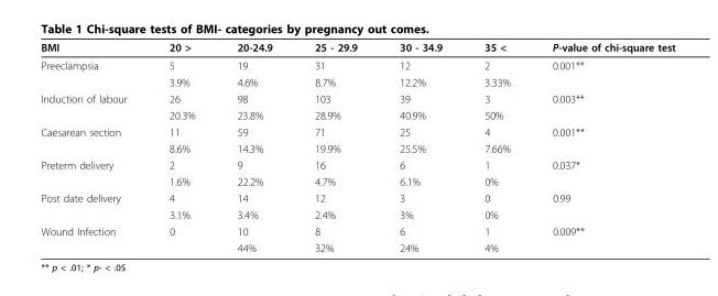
<table><thead><tr><td>BMI</td><td>20 &gt;</td><td>20-24.9</td><td>25 - 29.9</td><td>30 - 34.9</td><td>35 &lt;</td><td>P-value of chi-square test</td></tr></thead><tbody><tr><td rowspan="2">Preeclampsia</td><td>5</td><td>19</td><td>31</td><td>12</td><td>2</td><td>0.001**</td></tr><tr><td>3.9%</td><td>4.6%</td><td>8.7%</td><td>12.2%</td><td>3.33%</td><td></td></tr><tr><td rowspan="2">Induction of labour</td><td>26</td><td>98</td><td>103</td><td>39</td><td>3</td><td>0.003**</td></tr><tr><td>20.3%</td><td>23.8%</td><td>28.9%</td><td>40.9%</td><td>50%</td><td></td></tr><tr><td rowspan="2">Caesarean section</td><td>11</td><td>59</td><td>71</td><td>25</td><td>4</td><td>0.001**</td></tr><tr><td>8.6%</td><td>14.3%</td><td>19.9%</td><td>25.5%</td><td>7.66%</td><td></td></tr><tr><td rowspan="2">Preterm delivery</td><td>2</td><td>9</td><td>16</td><td>6</td><td>1</td><td>0.037*</td></tr><tr><td>1.6%</td><td>22.2%</td><td>4.7%</td><td>6.1%</td><td>0%</td><td></td></tr><tr><td rowspan="2">Post date delivery</td><td>4</td><td>14</td><td>12</td><td>3</td><td>0</td><td>0.99</td></tr><tr><td>3.1%</td><td>3.4%</td><td>2.4%</td><td>3%</td><td>0%</td><td></td></tr><tr><td rowspan="2">Wound Infection</td><td>0</td><td>10</td><td>8</td><td>6</td><td>1</td><td>0.009**</td></tr><tr><td></td><td>44%</td><td>32%</td><td>24%</td><td>4%</td><td></td></tr></tbody></table>